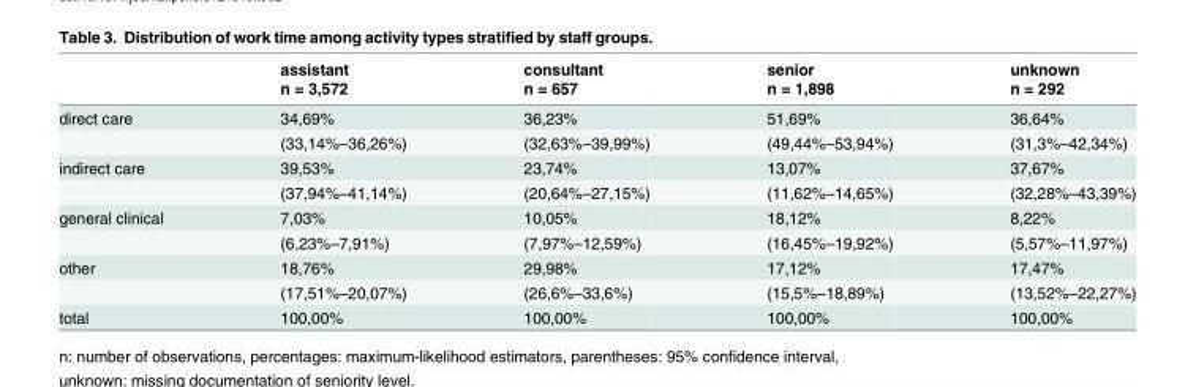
<table><thead><tr><td rowspan="2"></td><td rowspan="2">assistant n = 3,572</td><td rowspan="2">consultant n = 657</td><td rowspan="2">senior n = 1,898</td><td rowspan="2">unknown n = 292</td></tr><tr></tr></thead><tbody><tr><td rowspan="2">direct care</td><td>34,69%</td><td>36,23%</td><td>51,69%</td><td>36,64%</td></tr><tr><td>(33,14%–36,26%)</td><td>(32,63%–39,99%)</td><td>(49,44%–53,94%)</td><td>(31,3%–42,34%)</td></tr><tr><td rowspan="2">indirect care</td><td>39,53%</td><td>23,74%</td><td>13,07%</td><td>37,67%</td></tr><tr><td>(37,94%–41,14%)</td><td>(20,64%–27,15%)</td><td>(11,62%–14,65%)</td><td>(32,28%–43,39%)</td></tr><tr><td rowspan="2">general clinical</td><td>7,03%</td><td>10,05%</td><td>18,12%</td><td>8,22%</td></tr><tr><td>(6,23%–7,91%)</td><td>(7,97%–12,59%)</td><td>(16,45%–19,92%)</td><td>(5,57%–11,97%)</td></tr><tr><td rowspan="2">other</td><td>18,76%</td><td>29,98%</td><td>17,12%</td><td>17,47%</td></tr><tr><td>(17,51%–20,07%)</td><td>(26,6%–33,6%)</td><td>(15,5%–18,89%)</td><td>(13,52%–22,27%)</td></tr><tr><td>total</td><td>100,00%</td><td>100,00%</td><td>100,00%</td><td>100,00%</td></tr></tbody></table>